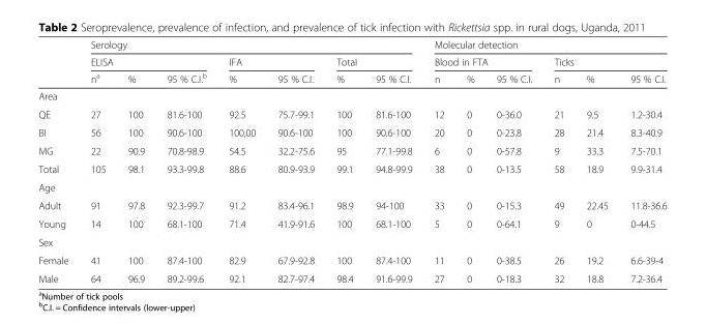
<table><thead><tr><td rowspan="3"></td><td colspan="7">Serology</td><td colspan="6">Molecular detection</td></tr><tr><td colspan="3">ELISA</td><td colspan="2">IFA</td><td colspan="2">Total</td><td colspan="3">Blood in FTA</td><td colspan="3">Ticks</td></tr><tr><td>n<sup>a</sup></td><td>%</td><td>95 % C.I.<sup>b</sup></td><td>%</td><td>95 % C.I.</td><td>%</td><td>95 % C.I.</td><td>n</td><td>%</td><td>95 % C.I.</td><td>n</td><td>%</td><td>95 % C.I.</td></tr></thead><tbody><tr><td colspan="14">Area</td></tr><tr><td>QE</td><td>27</td><td>100</td><td>81.6-100</td><td>92.5</td><td>75.7-99.1</td><td>100</td><td>81.6-100</td><td>12</td><td>0</td><td>0-36.0</td><td>21</td><td>9.5</td><td>1.2-30.4</td></tr><tr><td>BI</td><td>56</td><td>100</td><td>90.6-100</td><td>100,00</td><td>90.6-100</td><td>100</td><td>90.6-100</td><td>20</td><td>0</td><td>0-23.8</td><td>28</td><td>21.4</td><td>8.3-40.9</td></tr><tr><td>MG</td><td>22</td><td>90.9</td><td>70.8-98.9</td><td>54.5</td><td>32.2-75.6</td><td>95</td><td>77.1-99.8</td><td>6</td><td>0</td><td>0-57.8</td><td>9</td><td>33.3</td><td>7.5-70.1</td></tr><tr><td>Total</td><td>105</td><td>98.1</td><td>93.3-99.8</td><td>88.6</td><td>80.9-93.9</td><td>99.1</td><td>94.8-99.9</td><td>38</td><td>0</td><td>0-13.5</td><td>58</td><td>18.9</td><td>9.9-31.4</td></tr><tr><td colspan="14">Age</td></tr><tr><td>Adult</td><td>91</td><td>97.8</td><td>92.3-99.7</td><td>91.2</td><td>83.4-96.1</td><td>98.9</td><td>94-100</td><td>33</td><td>0</td><td>0-15.3</td><td>49</td><td>22.45</td><td>11.8-36.6</td></tr><tr><td>Young</td><td>14</td><td>100</td><td>68.1-100</td><td>71.4</td><td>41.9-91.6</td><td>100</td><td>68.1-100</td><td>5</td><td>0</td><td>0-64.1</td><td>9</td><td>0</td><td>0-44.5</td></tr><tr><td colspan="14">Sex</td></tr><tr><td>Female</td><td>41</td><td>100</td><td>87.4-100</td><td>82.9</td><td>67.9-92.8</td><td>100</td><td>87.4-100</td><td>11</td><td>0</td><td>0-38.5</td><td>26</td><td>19.2</td><td>6.6-39-4</td></tr><tr><td>Male</td><td>64</td><td>96.9</td><td>89.2-99.6</td><td>92.1</td><td>82.7-97.4</td><td>98.4</td><td>91.6-99.9</td><td>27</td><td>0</td><td>0-18.3</td><td>32</td><td>18.8</td><td>7.2-36.4</td></tr></tbody></table>